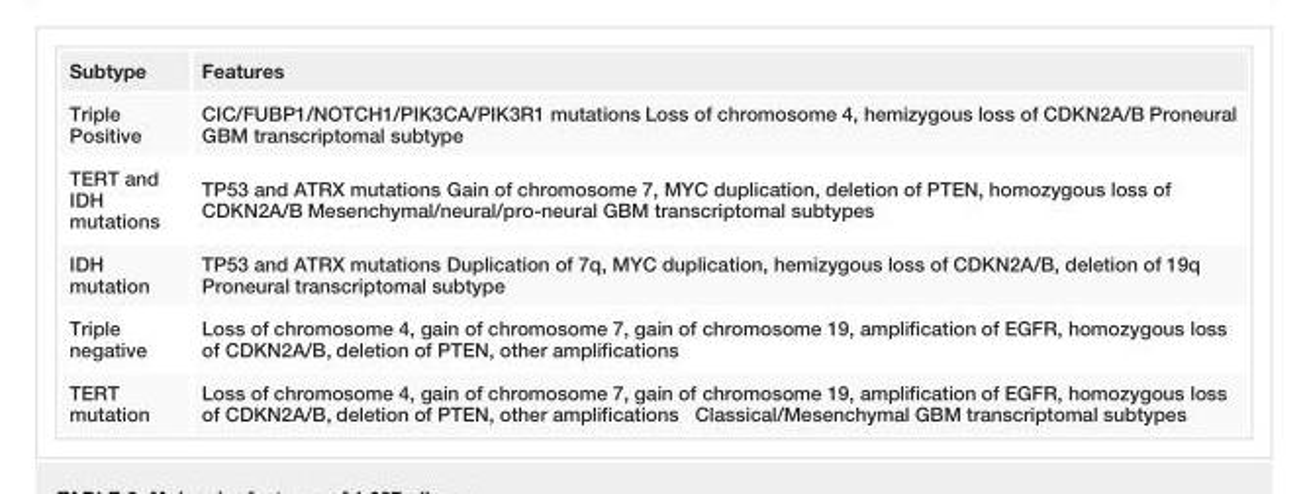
<table><tbody><tr><td>Subtype</td><td>Features</td></tr><tr><td>Triple Positive</td><td>CIC/FUBP1/NOTCH1/PIK3CA/PIK3R1 mutations Loss of chromosome 4, hemizygous loss of CDKN2A/B Proneural GBM transcriptomal subtype</td></tr><tr><td>TERT and IDH mutations</td><td>TP53 and ATRX mutations Gain of chromosome 7, MYC duplication, deletion of PTEN, homozygous loss of CDKN2A/B Mesenchymal/neural/pro-neural GBM transcriptomal subtypes</td></tr><tr><td>IDH mutation</td><td>TP53 and ATRX mutations Duplication of 7q, MYC duplication, hemizygous loss of CDKN2A/B, deletion of 19q Proneural transcriptomal subtype</td></tr><tr><td>Triple negative</td><td>Loss of chromosome 4, gain of chromosome 7, gain of chromosome 19, amplification of EGFR, homozygous loss of CDKN2A/B, deletion of PTEN, other amplifications</td></tr><tr><td>TERT mutation</td><td>Loss of chromosome 4, gain of chromosome 7, gain of chromosome 19, amplification of EGFR, homozygous loss of CDKN2A/B, deletion of PTEN, other amplifications Classical/Mesenchymal GBM transcriptomal subtypes</td></tr></tbody></table>